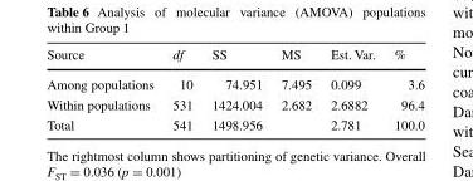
<table><thead><tr><td>Source</td><td>df</td><td>SS</td><td>MS</td><td>Est. Var.</td><td>%</td></tr></thead><tbody><tr><td>Among populations</td><td>10</td><td>74.951</td><td>7.495</td><td>0.099</td><td>3.6</td></tr><tr><td>Within populations</td><td>531</td><td>1424.004</td><td>2.682</td><td>2.6882</td><td>96.4</td></tr><tr><td>Total</td><td>541</td><td>1498.956</td><td></td><td>2.781</td><td>100.0</td></tr></tbody></table>